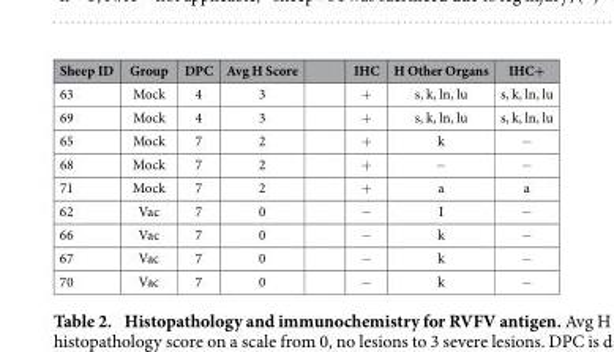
<table><thead><tr><td>Sheep ID</td><td>Group</td><td>DPC</td><td>Avg H Score</td><td>IHC</td><td>H Other Organs</td><td>IHC+</td></tr></thead><tbody><tr><td>63</td><td>Mock</td><td>4</td><td>3</td><td>+</td><td>s, k, ln, lu</td><td>s, k, ln, lu</td></tr><tr><td>69</td><td>Mock</td><td>4</td><td>3</td><td>+</td><td>s, k, ln, lu</td><td>s, k, ln, lu</td></tr><tr><td>65</td><td>Mock</td><td>7</td><td>2</td><td>+</td><td>k</td><td>−</td></tr><tr><td>68</td><td>Mock</td><td>7</td><td>2</td><td>+</td><td>−</td><td>−</td></tr><tr><td>71</td><td>Mock</td><td>7</td><td>2</td><td>+</td><td>a</td><td>a</td></tr><tr><td>62</td><td>Vac</td><td>7</td><td>0</td><td>−</td><td>I</td><td>−</td></tr><tr><td>66</td><td>Vac</td><td>7</td><td>0</td><td>−</td><td>k</td><td>−</td></tr><tr><td>67</td><td>Vac</td><td>7</td><td>0</td><td>−</td><td>k</td><td>−</td></tr><tr><td>70</td><td>Vac</td><td>7</td><td>0</td><td>−</td><td>k</td><td>−</td></tr></tbody></table>